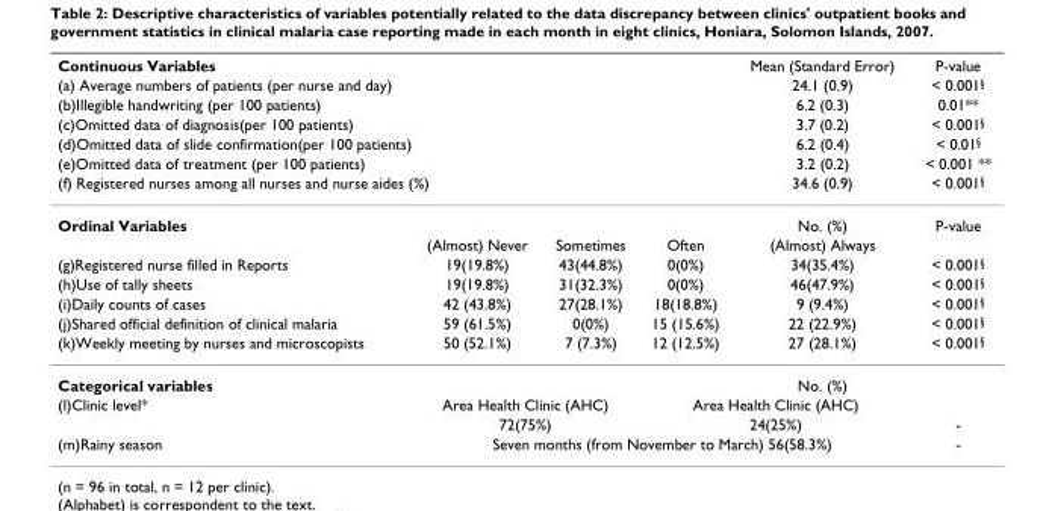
<table><thead><tr><td>Continuous Variables</td><td></td><td></td><td></td><td rowspan="7">Mean (Standard Error) 24.1 (0.9) 6.2 (0.3) 3.7 (0.2) 6.2 (0.4) 3.2 (0.2) 34.6 (0.9)</td><td rowspan="7">P-value &lt; 0.001§ 0.01** &lt; 0.001§ &lt; 0.01§ &lt; 0.001 ** &lt; 0.001§</td></tr><tr><td rowspan="6" colspan="4">(a) Average numbers of patients (per nurse and day) (b)Illegible handwriting (per 100 patients) (c)Omitted data of diagnosis(per 100 patients) (d)Omitted data of slide confirmation(per 100 patients) (e)Omitted data of treatment (per 100 patients) (f) Registered nurses among all nurses and nurse aides (%)</td></tr><tr></tr><tr></tr><tr></tr><tr></tr><tr></tr></thead><tbody><tr><td rowspan="2">Ordinal Variables</td><td></td><td></td><td></td><td>No. (%)</td><td>P-value</td></tr><tr><td>(Almost) Never</td><td>Sometimes</td><td>Often</td><td>(Almost) Always</td><td></td></tr><tr><td>(g)Registered nurse filled in Reports</td><td>19(19.8%)</td><td>43(44.8%)</td><td>0(0%)</td><td>34(35.4%)</td><td>&lt; 0.001<sup>§</sup></td></tr><tr><td>(h)Use of tally sheets</td><td>19(19.8%)</td><td>31(32.3%)</td><td>0(0%)</td><td>46(47.9%)</td><td>&lt; 0.001<sup>§</sup></td></tr><tr><td>(i)Daily counts of cases</td><td>42 (43.8%)</td><td>27(28.1%)</td><td>18(18.8%)</td><td>9 (9.4%)</td><td>&lt; 0.001<sup>§</sup></td></tr><tr><td>(j)Shared official definition of clinical malaria</td><td>59 (61.5%)</td><td>0(0%)</td><td>15 (15.6%)</td><td>22 (22.9%)</td><td>&lt; 0.001<sup>§</sup></td></tr><tr><td>(k)Weekly meeting by nurses and microscopists</td><td>50 (52.1%)</td><td>7 (7.3%)</td><td>12 (12.5%)</td><td>27 (28.1%)</td><td>&lt; 0.001<sup>§</sup></td></tr><tr><td>Categorical variables</td><td></td><td></td><td></td><td>No. (%)</td><td></td></tr><tr><td rowspan="2">(l)Clinic level*</td><td colspan="2">Area Health Clinic (AHC)</td><td colspan="2">Area Health Clinic (AHC)</td><td></td></tr><tr><td colspan="2">72(75%)</td><td colspan="2">24(25%)</td><td>-</td></tr><tr><td>(m)Rainy season</td><td colspan="4">Seven months (from November to March) 56(58.3%)</td><td>-</td></tr></tbody></table>